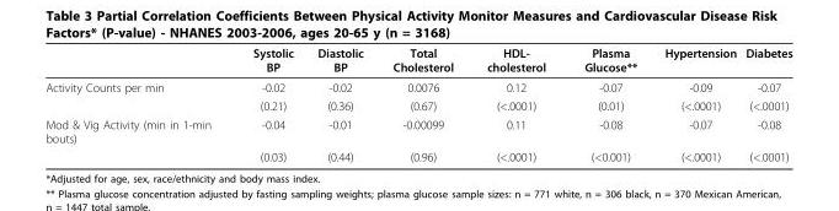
<table><thead><tr><td></td><td>Systolic BP</td><td>Diastolic BP</td><td>Total Cholesterol</td><td>HDL- cholesterol</td><td>Plasma Glucose**</td><td>Hypertension</td><td>Diabetes</td></tr></thead><tbody><tr><td rowspan="2">Activity Counts per min</td><td>-0.02</td><td>-0.02</td><td>0.0076</td><td>0.12</td><td>-0.07</td><td>-0.09</td><td>-0.07</td></tr><tr><td>(0.21)</td><td>(0.36)</td><td>(0.67)</td><td>(&lt;.0001)</td><td>(0.01)</td><td>(&lt;.0001)</td><td>(&lt;.0001)</td></tr><tr><td rowspan="2">Mod &amp; Vig Activity (min in 1-min bouts)</td><td>-0.04</td><td>-0.01</td><td>-0.00099</td><td>0.11</td><td>-0.08</td><td>-0.07</td><td>-0.08</td></tr><tr><td>(0.03)</td><td>(0.44)</td><td>(0.96)</td><td>(&lt;.0001)</td><td>(&lt;0.001)</td><td>(&lt;.0001)</td><td>(&lt;.0001)</td></tr></tbody></table>